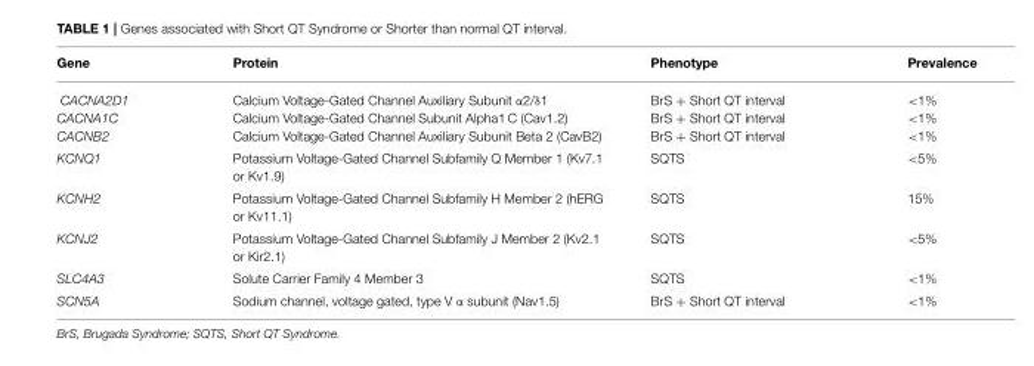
<table><thead><tr><td>Gene</td><td>Protein</td><td>Phenotype</td><td>Prevalence</td></tr></thead><tbody><tr><td>CACNA2D1 CACNA1C CACNB2</td><td>Calcium Voltage-Gated Channel Auxiliary Subunit α2/δ1 Calcium Voltage-Gated Channel Subunit Alpha1 C (Cav1.2) Calcium Voltage-Gated Channel Auxiliary Subunit Beta 2 (CavB2)</td><td>BrS + Short QT interval BrS + Short QT interval BrS + Short QT interval</td><td>&lt;1% &lt;1% &lt;1%</td></tr><tr><td>KCNQ1</td><td>Potassium Voltage-Gated Channel Subfamily Q Member 1 (Kv7.1 or Kv1.9)</td><td>SQTS</td><td>&lt;5%</td></tr><tr><td>KCNH2</td><td>Potassium Voltage-Gated Channel Subfamily H Member 2 (hERG or Kv11.1)</td><td>SQTS</td><td>15%</td></tr><tr><td>KCNJ2</td><td>Potassium Voltage-Gated Channel Subfamily J Member 2 (Kv2.1 or Kir2.1)</td><td>SQTS</td><td>&lt;5%</td></tr><tr><td>SLC4A3</td><td>Solute Carrier Family 4 Member 3</td><td>SQTS</td><td>&lt;1%</td></tr><tr><td>SCN5A</td><td>Sodium channel, voltage gated, type V α subunit (Nav1.5)</td><td>BrS + Short QT interval</td><td>&lt;1%</td></tr></tbody></table>